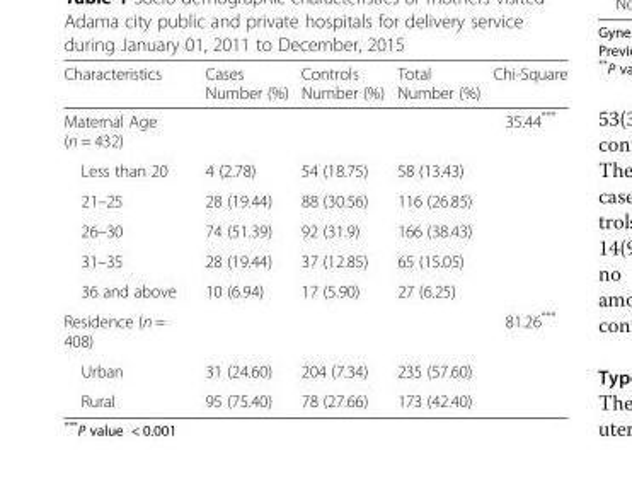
<table><thead><tr><td>Characteristics</td><td>Cases Number (%)</td><td>Controls Number (%)</td><td>Total Number (%)</td><td>Chi-Square</td></tr></thead><tbody><tr><td>Maternal Age (n = 432)</td><td></td><td></td><td></td><td>35.44***</td></tr><tr><td>Less than 20</td><td>4 (2.78)</td><td>54 (18.75)</td><td>58 (13.43)</td><td></td></tr><tr><td>21–25</td><td>28 (19.44)</td><td>88 (30.56)</td><td>116 (26.85)</td><td></td></tr><tr><td>26–30</td><td>74 (51.39)</td><td>92 (31.9)</td><td>166 (38.43)</td><td></td></tr><tr><td>31–35</td><td>28 (19.44)</td><td>37 (12.85)</td><td>65 (15.05)</td><td></td></tr><tr><td>36 and above</td><td>10 (6.94)</td><td>17 (5.90)</td><td>27 (6.25)</td><td></td></tr><tr><td>Residence (n = 408)</td><td></td><td></td><td></td><td>81.26***</td></tr><tr><td>Urban</td><td>31 (24.60)</td><td>204 (7.34)</td><td>235 (57.60)</td><td></td></tr><tr><td>Rural</td><td>95 (75.40)</td><td>78 (27.66)</td><td>173 (42.40)</td><td></td></tr></tbody></table>